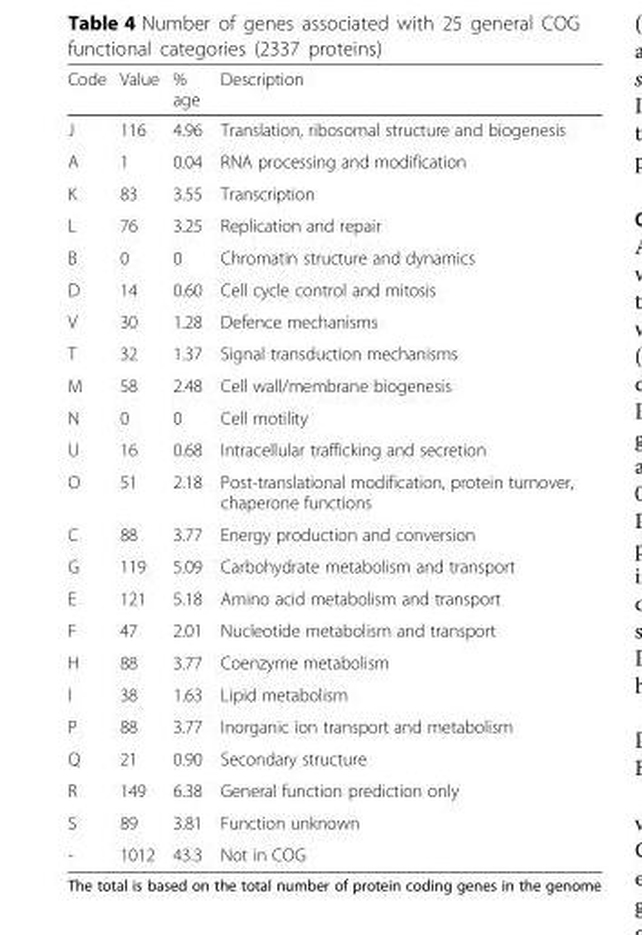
<table><thead><tr><td>Code</td><td>Value</td><td>% age</td><td>Description</td></tr></thead><tbody><tr><td>J</td><td>116</td><td>4.96</td><td>Translation, ribosomal structure and biogenesis</td></tr><tr><td>A</td><td>1</td><td>0.04</td><td>RNA processing and modification</td></tr><tr><td>K</td><td>83</td><td>3.55</td><td>Transcription</td></tr><tr><td>L</td><td>76</td><td>3.25</td><td>Replication and repair</td></tr><tr><td>B</td><td>0</td><td>0</td><td>Chromatin structure and dynamics</td></tr><tr><td>D</td><td>14</td><td>0.60</td><td>Cell cycle control and mitosis</td></tr><tr><td>V</td><td>30</td><td>1.28</td><td>Defence mechanisms</td></tr><tr><td>T</td><td>32</td><td>1.37</td><td>Signal transduction mechanisms</td></tr><tr><td>M</td><td>58</td><td>2.48</td><td>Cell wall/membrane biogenesis</td></tr><tr><td>N</td><td>0</td><td>0</td><td>Cell motility</td></tr><tr><td>U</td><td>16</td><td>0.68</td><td>Intracellular trafficking and secretion</td></tr><tr><td>O</td><td>51</td><td>2.18</td><td>Post-translational modification, protein turnover, chaperone functions</td></tr><tr><td>C</td><td>88</td><td>3.77</td><td>Energy production and conversion</td></tr><tr><td>G</td><td>119</td><td>5.09</td><td>Carbohydrate metabolism and transport</td></tr><tr><td>E</td><td>121</td><td>5.18</td><td>Amino acid metabolism and transport</td></tr><tr><td>F</td><td>47</td><td>2.01</td><td>Nucleotide metabolism and transport</td></tr><tr><td>H</td><td>88</td><td>3.77</td><td>Coenzyme metabolism</td></tr><tr><td>I</td><td>38</td><td>1.63</td><td>Lipid metabolism</td></tr><tr><td>P</td><td>88</td><td>3.77</td><td>Inorganic ion transport and metabolism</td></tr><tr><td>Q</td><td>21</td><td>0.90</td><td>Secondary structure</td></tr><tr><td>R</td><td>149</td><td>6.38</td><td>General function prediction only</td></tr><tr><td>S</td><td>89</td><td>3.81</td><td>Function unknown</td></tr><tr><td>-</td><td>1012</td><td>43.3</td><td>Not in COG</td></tr></tbody></table>